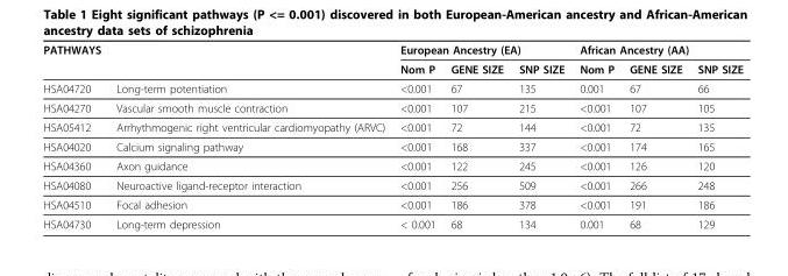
<table><thead><tr><td rowspan="2">PATHWAYS</td><td rowspan="2"></td><td colspan="3">European Ancestry (EA)</td><td colspan="3">African Ancestry (AA)</td></tr><tr><td>Nom P</td><td>GENE SIZE</td><td>SNP SIZE</td><td>Nom P</td><td>GENE SIZE</td><td>SNP SIZE</td></tr></thead><tbody><tr><td>HSA04720</td><td>Long-term potentiation</td><td>&lt;0.001</td><td>67</td><td>135</td><td>0.001</td><td>67</td><td>66</td></tr><tr><td>HSA04270</td><td>Vascular smooth muscle contraction</td><td>&lt;0.001</td><td>107</td><td>215</td><td>&lt;0.001</td><td>107</td><td>105</td></tr><tr><td>HSA05412</td><td>Arrhythmogenic right ventricular cardiomyopathy (ARVC)</td><td>&lt;0.001</td><td>72</td><td>144</td><td>&lt;0.001</td><td>72</td><td>135</td></tr><tr><td>HSA04020</td><td>Calcium signaling pathway</td><td>&lt;0.001</td><td>168</td><td>337</td><td>&lt;0.001</td><td>174</td><td>165</td></tr><tr><td>HSA04360</td><td>Axon guidance</td><td>&lt;0.001</td><td>122</td><td>245</td><td>&lt;0.001</td><td>126</td><td>120</td></tr><tr><td>HSA04080</td><td>Neuroactive ligand-receptor interaction</td><td>&lt;0.001</td><td>256</td><td>509</td><td>&lt;0.001</td><td>266</td><td>248</td></tr><tr><td>HSA04510</td><td>Focal adhesion</td><td>&lt;0.001</td><td>186</td><td>378</td><td>&lt;0.001</td><td>191</td><td>186</td></tr><tr><td>HSA04730</td><td>Long-term depression</td><td>&lt; 0.001</td><td>68</td><td>134</td><td>0.001</td><td>68</td><td>129</td></tr></tbody></table>